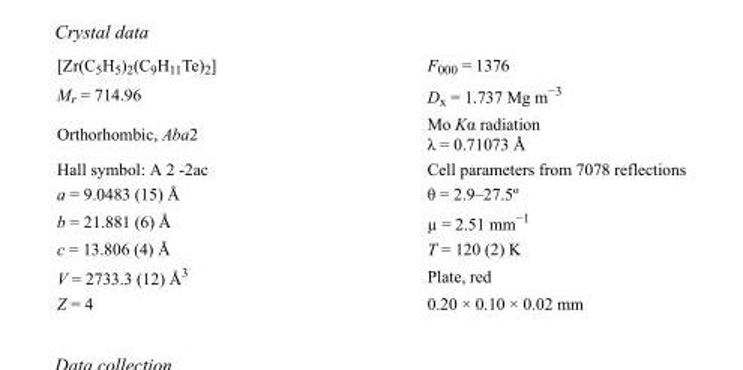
<table><tbody><tr><td>[Zr(C<sub>5</sub>H<sub>5</sub>)<sub>2</sub>(C<sub>9</sub>H<sub>11</sub>Te)<sub>2</sub>]</td><td>F<sub>000</sub> = 1376</td></tr><tr><td>M<sub>r</sub> = 714.96</td><td>D<sub>x</sub> = 1.737 Mg m<sup>−3</sup></td></tr><tr><td>Orthorhombic, Aba2</td><td>Mo Kα radiation λ = 0.71073 Å</td></tr><tr><td>Hall symbol: A 2 -2ac</td><td>Cell parameters from 7078 reflections</td></tr><tr><td>a = 9.0483 (15) Å</td><td>θ = 2.9–27.5º</td></tr><tr><td>b = 21.881 (6) Å</td><td>µ = 2.51 mm<sup>−1</sup></td></tr><tr><td>c = 13.806 (4) Å</td><td>T = 120 (2) K</td></tr><tr><td>V = 2733.3 (12) Å<sup>3</sup></td><td>Plate, red</td></tr><tr><td>Z = 4</td><td>0.20 × 0.10 × 0.02 mm</td></tr></tbody></table>